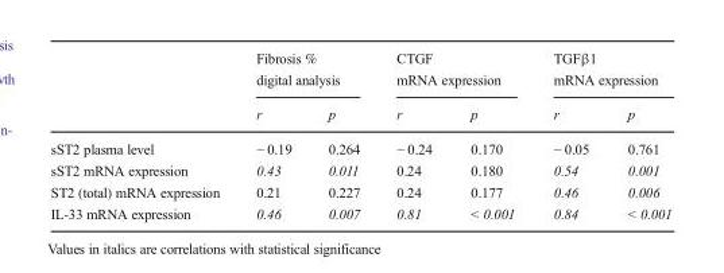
<table><thead><tr><td rowspan="2"></td><td colspan="2">Fibrosis % digital analysis</td><td colspan="2">CTGF mRNA expression</td><td colspan="2">TGFβ1 mRNA expression</td></tr><tr><td>r</td><td>p</td><td>r</td><td>p</td><td>r</td><td>p</td></tr></thead><tbody><tr><td>sST2 plasma level</td><td>− 0.19</td><td>0.264</td><td>− 0.24</td><td>0.170</td><td>− 0.05</td><td>0.761</td></tr><tr><td>sST2 mRNA expression</td><td>0.43</td><td>0.011</td><td>0.24</td><td>0.180</td><td>0.54</td><td>0.001</td></tr><tr><td>ST2 (total) mRNA expression</td><td>0.21</td><td>0.227</td><td>0.24</td><td>0.177</td><td>0.46</td><td>0.006</td></tr><tr><td>IL-33 mRNA expression</td><td>0.46</td><td>0.007</td><td>0.81</td><td>&lt; 0.001</td><td>0.84</td><td>&lt; 0.001</td></tr></tbody></table>